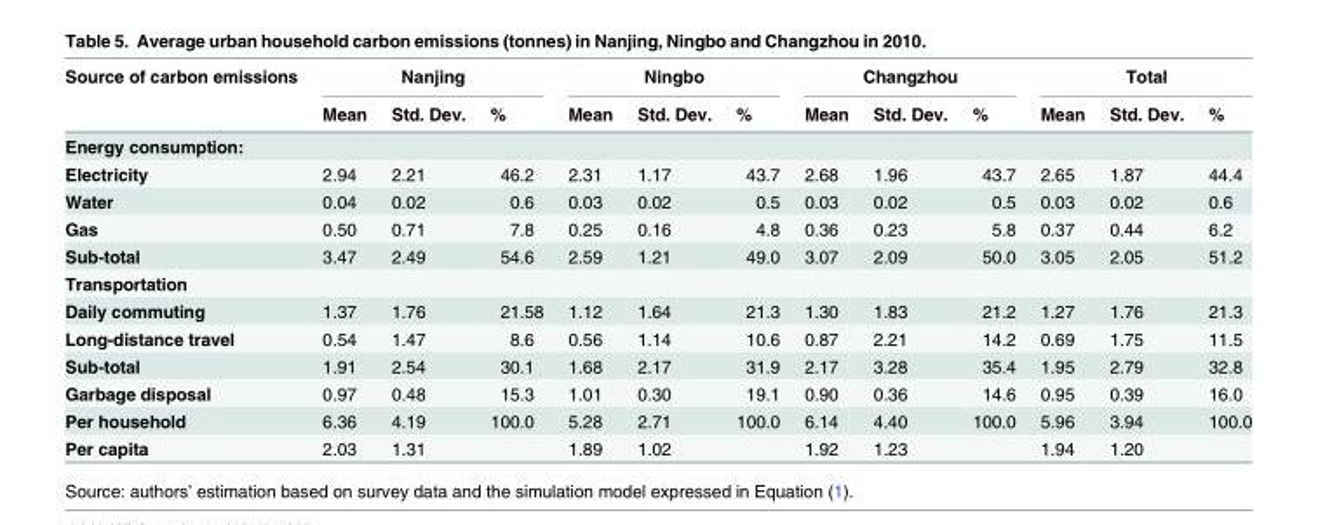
<table><thead><tr><td rowspan="2">Source of carbon emissions</td><td colspan="3">Nanjing</td><td colspan="3">Ningbo</td><td colspan="3">Changzhou</td><td colspan="3">Total</td></tr><tr><td>Mean</td><td>Std. Dev.</td><td>%</td><td>Mean</td><td>Std. Dev.</td><td>%</td><td>Mean</td><td>Std. Dev.</td><td>%</td><td>Mean</td><td>Std. Dev.</td><td>%</td></tr></thead><tbody><tr><td colspan="13">Energy consumption:</td></tr><tr><td>Electricity</td><td>2.94</td><td>2.21</td><td>46.2</td><td>2.31</td><td>1.17</td><td>43.7</td><td>2.68</td><td>1.96</td><td>43.7</td><td>2.65</td><td>1.87</td><td>44.4</td></tr><tr><td>Water</td><td>0.04</td><td>0.02</td><td>0.6</td><td>0.03</td><td>0.02</td><td>0.5</td><td>0.03</td><td>0.02</td><td>0.5</td><td>0.03</td><td>0.02</td><td>0.6</td></tr><tr><td>Gas</td><td>0.50</td><td>0.71</td><td>7.8</td><td>0.25</td><td>0.16</td><td>4.8</td><td>0.36</td><td>0.23</td><td>5.8</td><td>0.37</td><td>0.44</td><td>6.2</td></tr><tr><td>Sub-total</td><td>3.47</td><td>2.49</td><td>54.6</td><td>2.59</td><td>1.21</td><td>49.0</td><td>3.07</td><td>2.09</td><td>50.0</td><td>3.05</td><td>2.05</td><td>51.2</td></tr><tr><td colspan="13">Transportation</td></tr><tr><td>Daily commuting</td><td>1.37</td><td>1.76</td><td>21.58</td><td>1.12</td><td>1.64</td><td>21.3</td><td>1.30</td><td>1.83</td><td>21.2</td><td>1.27</td><td>1.76</td><td>21.3</td></tr><tr><td>Long-distance travel</td><td>0.54</td><td>1.47</td><td>8.6</td><td>0.56</td><td>1.14</td><td>10.6</td><td>0.87</td><td>2.21</td><td>14.2</td><td>0.69</td><td>1.75</td><td>11.5</td></tr><tr><td>Sub-total</td><td>1.91</td><td>2.54</td><td>30.1</td><td>1.68</td><td>2.17</td><td>31.9</td><td>2.17</td><td>3.28</td><td>35.4</td><td>1.95</td><td>2.79</td><td>32.8</td></tr><tr><td>Garbage disposal</td><td>0.97</td><td>0.48</td><td>15.3</td><td>1.01</td><td>0.30</td><td>19.1</td><td>0.90</td><td>0.36</td><td>14.6</td><td>0.95</td><td>0.39</td><td>16.0</td></tr><tr><td>Per household</td><td>6.36</td><td>4.19</td><td>100.0</td><td>5.28</td><td>2.71</td><td>100.0</td><td>6.14</td><td>4.40</td><td>100.0</td><td>5.96</td><td>3.94</td><td>100.0</td></tr><tr><td>Per capita</td><td>2.03</td><td>1.31</td><td></td><td>1.89</td><td>1.02</td><td></td><td>1.92</td><td>1.23</td><td></td><td>1.94</td><td>1.20</td><td></td></tr></tbody></table>